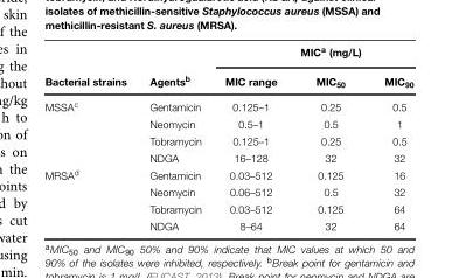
<table><thead><tr><td rowspan="2">Bacterial strains</td><td rowspan="2">Agents<sup>b</sup></td><td rowspan="2">MIC range</td><td rowspan="2">MIC<sup>a</sup> (mg/L) MIC<sub>50</sub></td><td rowspan="2">MIC<sub>90</sub></td></tr><tr></tr></thead><tbody><tr><td rowspan="4">MSSA<sup>c</sup></td><td>Gentamicin</td><td>0.125–1</td><td>0.25</td><td>0.5</td></tr><tr><td>Neomycin</td><td>0.5–1</td><td>0.5</td><td>1</td></tr><tr><td>Tobramycin</td><td>0.125–1</td><td>0.25</td><td>0.5</td></tr><tr><td>NDGA</td><td>16–128</td><td>32</td><td>32</td></tr><tr><td rowspan="4">MRSA<sup>d</sup></td><td>Gentamicin</td><td>0.03–512</td><td>0.125</td><td>16</td></tr><tr><td>Neomycin</td><td>0.06–512</td><td>0.5</td><td>32</td></tr><tr><td>Tobramycin</td><td>0.03–512</td><td>0.125</td><td>64</td></tr><tr><td>NDGA</td><td>8–64</td><td>32</td><td>64</td></tr></tbody></table>